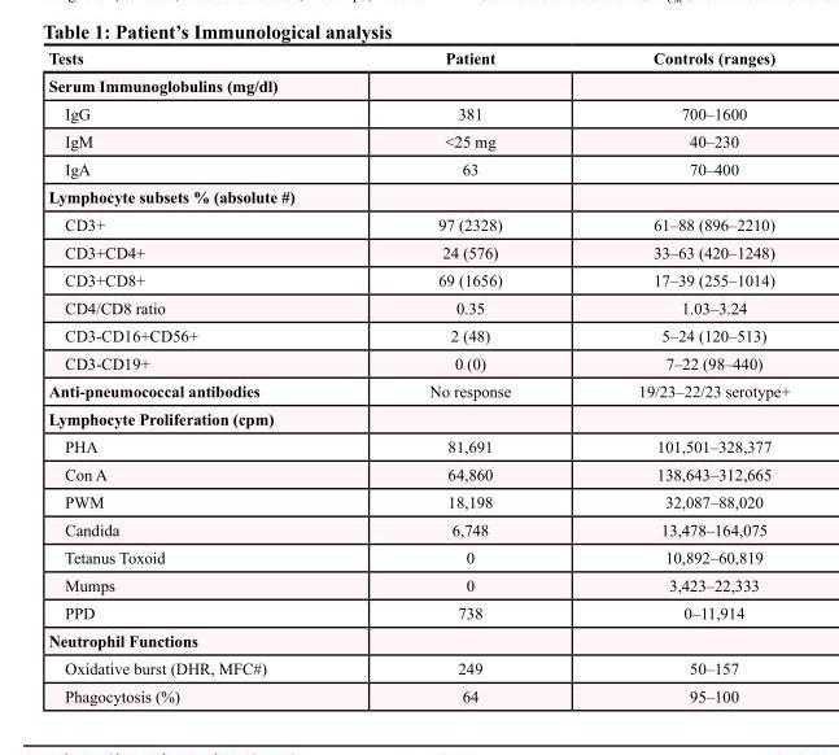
<table><thead><tr><td>Tests</td><td>Patient</td><td>Controls (ranges)</td></tr></thead><tbody><tr><td colspan="3">Serum Immunoglobulins (mg/dl)</td></tr><tr><td>IgG</td><td>381</td><td>700–1600</td></tr><tr><td>IgM</td><td>&lt;25 mg</td><td>40–230</td></tr><tr><td>IgA</td><td>63</td><td>70–400</td></tr><tr><td colspan="3">Lymphocyte subsets % (absolute #)</td></tr><tr><td>CD3+</td><td>97 (2328)</td><td>61–88 (896–2210)</td></tr><tr><td>CD3+CD4+</td><td>24 (576)</td><td>33–63 (420–1248)</td></tr><tr><td>CD3+CD8+</td><td>69 (1656)</td><td>17–39 (255–1014)</td></tr><tr><td>CD4/CD8 ratio</td><td>0.35</td><td>1.03–3.24</td></tr><tr><td>CD3‑CD16+CD56+</td><td>2 (48)</td><td>5–24 (120–513)</td></tr><tr><td>CD3‑CD19+</td><td>0 (0)</td><td>7–22 (98–440)</td></tr><tr><td>Anti-pneumococcal antibodies</td><td>No response</td><td>19/23–22/23 serotype+</td></tr><tr><td colspan="3">Lymphocyte Proliferation (cpm)</td></tr><tr><td>PHA</td><td>81,691</td><td>101,501–328,377</td></tr><tr><td>Con A</td><td>64,860</td><td>138,643–312,665</td></tr><tr><td>PWM</td><td>18,198</td><td>32,087–88,020</td></tr><tr><td>Candida</td><td>6,748</td><td>13,478–164,075</td></tr><tr><td>Tetanus Toxoid</td><td>0</td><td>10,892–60,819</td></tr><tr><td>Mumps</td><td>0</td><td>3,423–22,333</td></tr><tr><td>PPD</td><td>738</td><td>0–11,914</td></tr><tr><td colspan="3">Neutrophil Functions</td></tr><tr><td>Oxidative burst (DHR, MFC#)</td><td>249</td><td>50–157</td></tr><tr><td>Phagocytosis (%)</td><td>64</td><td>95–100</td></tr></tbody></table>